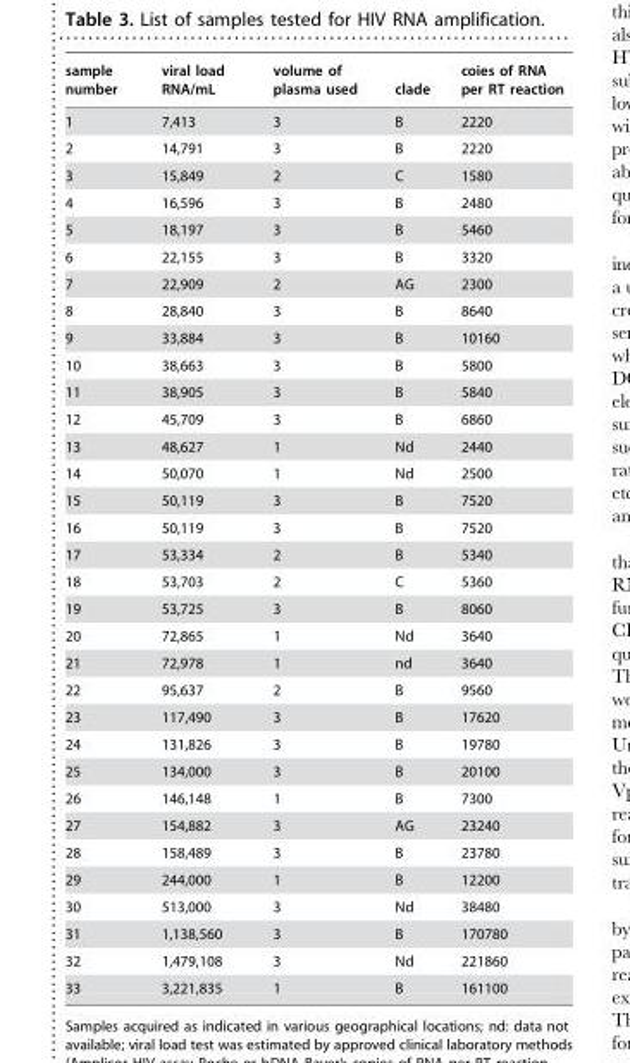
<table><thead><tr><td>sample number</td><td>viral load RNA/mL</td><td>volume of plasma used</td><td>clade</td><td>coies of RNA per RT reaction</td></tr></thead><tbody><tr><td>1</td><td>7,413</td><td>3</td><td>B</td><td>2220</td></tr><tr><td>2</td><td>14,791</td><td>3</td><td>B</td><td>2220</td></tr><tr><td>3</td><td>15,849</td><td>2</td><td>C</td><td>1580</td></tr><tr><td>4</td><td>16,596</td><td>3</td><td>B</td><td>2480</td></tr><tr><td>5</td><td>18,197</td><td>3</td><td>B</td><td>5460</td></tr><tr><td>6</td><td>22,155</td><td>3</td><td>B</td><td>3320</td></tr><tr><td>7</td><td>22,909</td><td>2</td><td>AG</td><td>2300</td></tr><tr><td>8</td><td>28,840</td><td>3</td><td>B</td><td>8640</td></tr><tr><td>9</td><td>33,884</td><td>3</td><td>B</td><td>10160</td></tr><tr><td>10</td><td>38,663</td><td>3</td><td>B</td><td>5800</td></tr><tr><td>11</td><td>38,905</td><td>3</td><td>B</td><td>5840</td></tr><tr><td>12</td><td>45,709</td><td>3</td><td>B</td><td>6860</td></tr><tr><td>13</td><td>48,627</td><td>1</td><td>Nd</td><td>2440</td></tr><tr><td>14</td><td>50,070</td><td>1</td><td>Nd</td><td>2500</td></tr><tr><td>15</td><td>50,119</td><td>3</td><td>B</td><td>7520</td></tr><tr><td>16</td><td>50,119</td><td>3</td><td>B</td><td>7520</td></tr><tr><td>17</td><td>53,334</td><td>2</td><td>B</td><td>5340</td></tr><tr><td>18</td><td>53,703</td><td>2</td><td>C</td><td>5360</td></tr><tr><td>19</td><td>53,725</td><td>3</td><td>B</td><td>8060</td></tr><tr><td>20</td><td>72,865</td><td>1</td><td>Nd</td><td>3640</td></tr><tr><td>21</td><td>72,978</td><td>1</td><td>nd</td><td>3640</td></tr><tr><td>22</td><td>95,637</td><td>2</td><td>B</td><td>9560</td></tr><tr><td>23</td><td>117,490</td><td>3</td><td>B</td><td>17620</td></tr><tr><td>24</td><td>131,826</td><td>3</td><td>B</td><td>19780</td></tr><tr><td>25</td><td>134,000</td><td>3</td><td>B</td><td>20100</td></tr><tr><td>26</td><td>146,148</td><td>1</td><td>B</td><td>7300</td></tr><tr><td>27</td><td>154,882</td><td>3</td><td>AG</td><td>23240</td></tr><tr><td>28</td><td>158,489</td><td>3</td><td>B</td><td>23780</td></tr><tr><td>29</td><td>244,000</td><td>1</td><td>B</td><td>12200</td></tr><tr><td>30</td><td>513,000</td><td>3</td><td>Nd</td><td>38480</td></tr><tr><td>31</td><td>1,138,560</td><td>3</td><td>B</td><td>170780</td></tr><tr><td>32</td><td>1,479,108</td><td>3</td><td>Nd</td><td>221860</td></tr><tr><td>33</td><td>3,221,835</td><td>1</td><td>B</td><td>161100</td></tr></tbody></table>